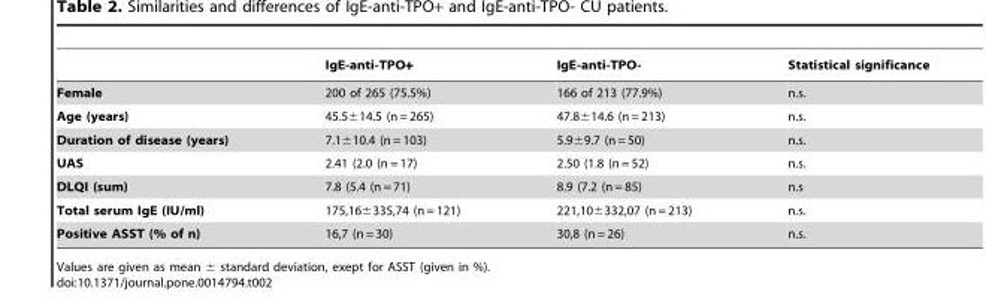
<table><thead><tr><td></td><td>IgE-anti-TPO+</td><td>IgE-anti-TPO-</td><td>Statistical significance</td></tr></thead><tbody><tr><td>Female</td><td>200 of 265 (75.5%)</td><td>166 of 213 (77.9%)</td><td>n.s.</td></tr><tr><td>Age (years)</td><td>45.5±14.5 (n = 265)</td><td>47.8±14.6 (n = 213)</td><td>n.s.</td></tr><tr><td>Duration of disease (years)</td><td>7.1±10.4 (n = 103)</td><td>5.9±9.7 (n = 50)</td><td>n.s.</td></tr><tr><td>UAS</td><td>2.41 (2.0 (n = 17)</td><td>2.50 (1.8 (n = 52)</td><td>n.s.</td></tr><tr><td>DLQI (sum)</td><td>7.8 (5.4 (n = 71)</td><td>8.9 (7.2 (n = 85)</td><td>n.s</td></tr><tr><td>Total serum IgE (IU/ml)</td><td>175,16±335,74 (n = 121)</td><td>221,10±332,07 (n = 213)</td><td>n.s.</td></tr><tr><td>Positive ASST (% of n)</td><td>16,7 (n = 30)</td><td>30,8 (n = 26)</td><td>n.s.</td></tr></tbody></table>